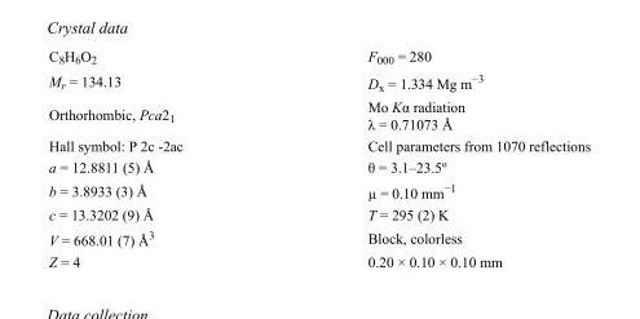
<table><tbody><tr><td>C<sub>8</sub>H<sub>6</sub>O<sub>2</sub></td><td>F<sub>000</sub> = 280</td></tr><tr><td>M<sub>r</sub> = 134.13</td><td>D<sub>x</sub> = 1.334 Mg m<sup>−3</sup></td></tr><tr><td>Orthorhombic, Pca2<sub>1</sub></td><td>Mo Kα radiation λ = 0.71073 Å</td></tr><tr><td>Hall symbol: P 2c -2ac</td><td>Cell parameters from 1070 reflections</td></tr><tr><td>a = 12.8811 (5) Å</td><td>θ = 3.1–23.5º</td></tr><tr><td>b = 3.8933 (3) Å</td><td>µ = 0.10 mm<sup>−1</sup></td></tr><tr><td>c = 13.3202 (9) Å</td><td>T = 295 (2) K</td></tr><tr><td>V = 668.01 (7) Å<sup>3</sup></td><td>Block, colorless</td></tr><tr><td>Z = 4</td><td>0.20 × 0.10 × 0.10 mm</td></tr></tbody></table>